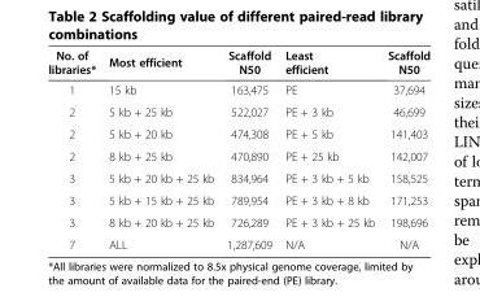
<table><thead><tr><td>No. of libraries*</td><td>Most efficient</td><td>Scaffold N50</td><td>Least efficient</td><td>Scaffold N50</td></tr></thead><tbody><tr><td>1</td><td>15 kb</td><td>163,475</td><td>PE</td><td>37,694</td></tr><tr><td>2</td><td>5 kb + 25 kb</td><td>522,027</td><td>PE + 3 kb</td><td>46,699</td></tr><tr><td>2</td><td>5 kb + 20 kb</td><td>474,308</td><td>PE + 5 kb</td><td>141,403</td></tr><tr><td>2</td><td>8 kb + 25 kb</td><td>470,890</td><td>PE + 25 kb</td><td>142,007</td></tr><tr><td>3</td><td>5 kb + 20 kb + 25 kb</td><td>834,964</td><td>PE + 3 kb + 5 kb</td><td>158,525</td></tr><tr><td>3</td><td>5 kb + 15 kb + 25 kb</td><td>789,954</td><td>PE + 3 kb + 8 kb</td><td>171,253</td></tr><tr><td>3</td><td>8 kb + 20 kb + 25 kb</td><td>726,289</td><td>PE + 3 kb + 25 kb</td><td>198,696</td></tr><tr><td>7</td><td>ALL</td><td>1,287,609</td><td>N/A</td><td>N/A</td></tr></tbody></table>